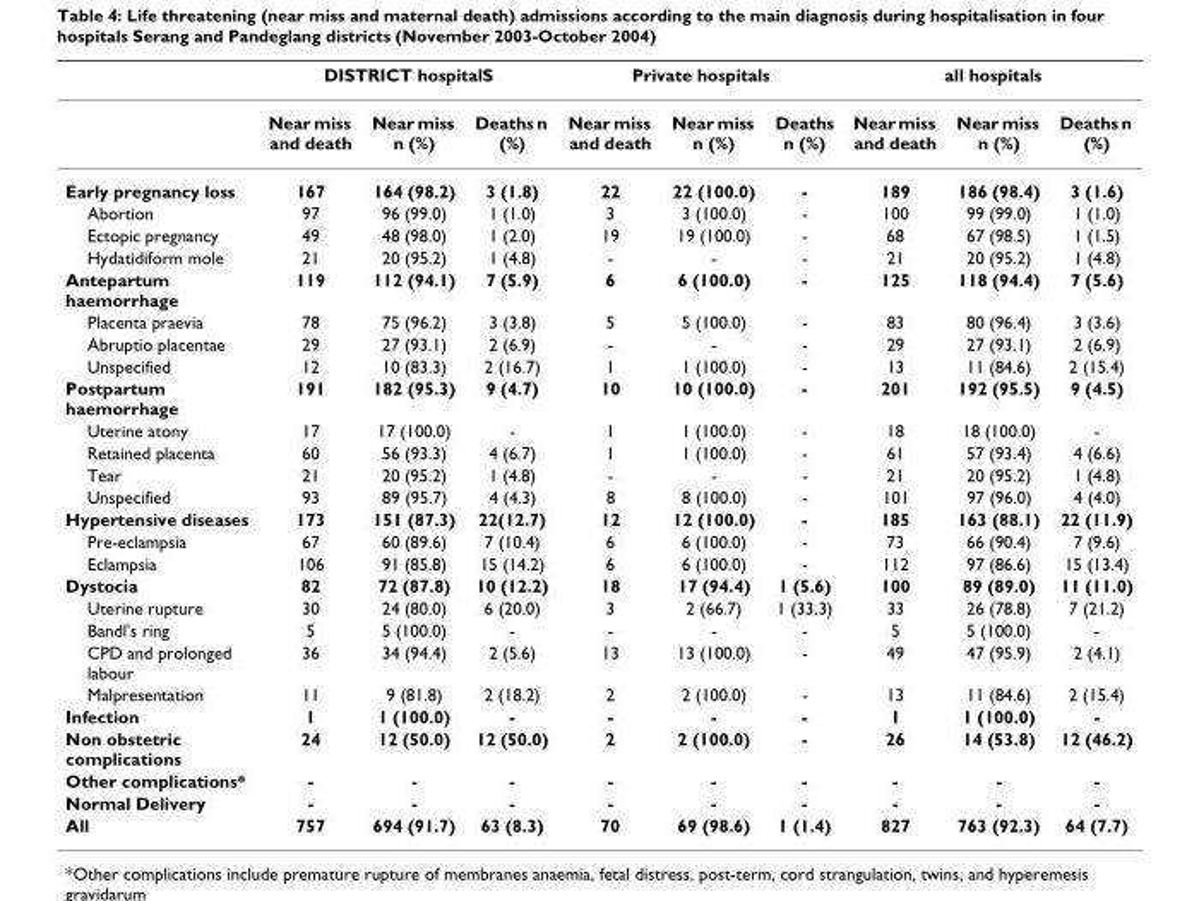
<table><thead><tr><td rowspan="2"></td><td colspan="3">DISTRICT hospitalS</td><td colspan="3">Private hospitals</td><td colspan="3">all hospitals</td></tr><tr><td>Near miss and death</td><td>Near miss n (%)</td><td>Deaths n (%)</td><td>Near miss and death</td><td>Near miss n (%)</td><td>Deaths n (%)</td><td>Near miss and death</td><td>Near miss n (%)</td><td>Deaths n (%)</td></tr></thead><tbody><tr><td>Early pregnancy loss</td><td>167</td><td>164 (98.2)</td><td>3 (1.8)</td><td>22</td><td>22 (100.0)</td><td>-</td><td>189</td><td>186 (98.4)</td><td>3 (1.6)</td></tr><tr><td>Abortion</td><td>97</td><td>96 (99.0)</td><td>1 (1.0)</td><td>3</td><td>3 (100.0)</td><td>-</td><td>100</td><td>99 (99.0)</td><td>1 (1.0)</td></tr><tr><td>Ectopic pregnancy</td><td>49</td><td>48 (98.0)</td><td>1 (2.0)</td><td>19</td><td>19 (100.0)</td><td>-</td><td>68</td><td>67 (98.5)</td><td>1 (1.5)</td></tr><tr><td>Hydatidiform mole</td><td>21</td><td>20 (95.2)</td><td>1 (4.8)</td><td>-</td><td>-</td><td>-</td><td>21</td><td>20 (95.2)</td><td>1 (4.8)</td></tr><tr><td>Antepartum haemorrhage</td><td>119</td><td>112 (94.1)</td><td>7 (5.9)</td><td>6</td><td>6 (100.0)</td><td>-</td><td>125</td><td>118 (94.4)</td><td>7 (5.6)</td></tr><tr><td>Placenta praevia</td><td>78</td><td>75 (96.2)</td><td>3 (3.8)</td><td>5</td><td>5 (100.0)</td><td>-</td><td>83</td><td>80 (96.4)</td><td>3 (3.6)</td></tr><tr><td>Abruptio placentae</td><td>29</td><td>27 (93.1)</td><td>2 (6.9)</td><td>-</td><td>-</td><td>-</td><td>29</td><td>27 (93.1)</td><td>2 (6.9)</td></tr><tr><td>Unspecified</td><td>12</td><td>10 (83.3)</td><td>2 (16.7)</td><td>1</td><td>1 (100.0)</td><td>-</td><td>13</td><td>11 (84.6)</td><td>2 (15.4)</td></tr><tr><td>Postpartum haemorrhage</td><td>191</td><td>182 (95.3)</td><td>9 (4.7)</td><td>10</td><td>10 (100.0)</td><td>-</td><td>201</td><td>192 (95.5)</td><td>9 (4.5)</td></tr><tr><td>Uterine atony</td><td>17</td><td>17 (100.0)</td><td>-</td><td>1</td><td>1 (100.0)</td><td>-</td><td>18</td><td>18 (100.0)</td><td>-</td></tr><tr><td>Retained placenta</td><td>60</td><td>56 (93.3)</td><td>4 (6.7)</td><td>1</td><td>1 (100.0)</td><td>-</td><td>61</td><td>57 (93.4)</td><td>4 (6.6)</td></tr><tr><td>Tear</td><td>21</td><td>20 (95.2)</td><td>1 (4.8)</td><td>-</td><td>-</td><td>-</td><td>21</td><td>20 (95.2)</td><td>1 (4.8)</td></tr><tr><td>Unspecified</td><td>93</td><td>89 (95.7)</td><td>4 (4.3)</td><td>8</td><td>8 (100.0)</td><td>-</td><td>101</td><td>97 (96.0)</td><td>4 (4.0)</td></tr><tr><td>Hypertensive diseases</td><td>173</td><td>151 (87.3)</td><td>22(12.7)</td><td>12</td><td>12 (100.0)</td><td>-</td><td>185</td><td>163 (88.1)</td><td>22 (11.9)</td></tr><tr><td>Pre-eclampsia</td><td>67</td><td>60 (89.6)</td><td>7 (10.4)</td><td>6</td><td>6 (100.0)</td><td>-</td><td>73</td><td>66 (90.4)</td><td>7 (9.6)</td></tr><tr><td>Eclampsia</td><td>106</td><td>91 (85.8)</td><td>15 (14.2)</td><td>6</td><td>6 (100.0)</td><td>-</td><td>112</td><td>97 (86.6)</td><td>15 (13.4)</td></tr><tr><td>Dystocia</td><td>82</td><td>72 (87.8)</td><td>10 (12.2)</td><td>18</td><td>17 (94.4)</td><td>1 (5.6)</td><td>100</td><td>89 (89.0)</td><td>11 (11.0)</td></tr><tr><td>Uterine rupture</td><td>30</td><td>24 (80.0)</td><td>6 (20.0)</td><td>3</td><td>2 (66.7)</td><td>1 (33.3)</td><td>33</td><td>26 (78.8)</td><td>7 (21.2)</td></tr><tr><td>Bandl&#x27;s ring</td><td>5</td><td>5 (100.0)</td><td>-</td><td>-</td><td>-</td><td>-</td><td>5</td><td>5 (100.0)</td><td>-</td></tr><tr><td>CPD and prolonged labour</td><td>36</td><td>34 (94.4)</td><td>2 (5.6)</td><td>13</td><td>13 (100.0)</td><td>-</td><td>49</td><td>47 (95.9)</td><td>2 (4.1)</td></tr><tr><td>Malpresentation</td><td>11</td><td>9 (81.8)</td><td>2 (18.2)</td><td>2</td><td>2 (100.0)</td><td>-</td><td>13</td><td>11 (84.6)</td><td>2 (15.4)</td></tr><tr><td>Infection</td><td>1</td><td>1 (100.0)</td><td>-</td><td>-</td><td>-</td><td>-</td><td>1</td><td>1 (100.0)</td><td>-</td></tr><tr><td>Non obstetric complications</td><td>24</td><td>12 (50.0)</td><td>12 (50.0)</td><td>2</td><td>2 (100.0)</td><td>-</td><td>26</td><td>14 (53.8)</td><td>12 (46.2)</td></tr><tr><td>Other complications*</td><td>-</td><td>-</td><td>-</td><td>-</td><td>-</td><td>-</td><td>-</td><td>-</td><td>-</td></tr><tr><td>Normal Delivery</td><td>-</td><td>-</td><td>-</td><td>-</td><td>-</td><td>-</td><td>-</td><td>-</td><td>-</td></tr><tr><td>All</td><td>757</td><td>694 (91.7)</td><td>63 (8.3)</td><td>70</td><td>69 (98.6)</td><td>1 (1.4)</td><td>827</td><td>763 (92.3)</td><td>64 (7.7)</td></tr></tbody></table>